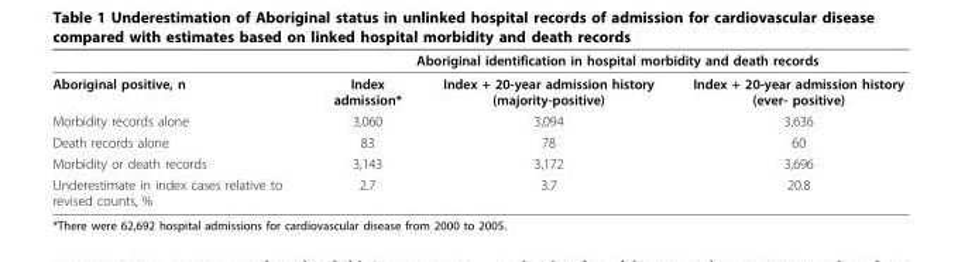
<table><thead><tr><td rowspan="2">Aboriginal positive, n</td><td colspan="3">Aboriginal identification in hospital morbidity and death records</td></tr><tr><td>Index admission*</td><td>Index + 20-year admission history (majority-positive)</td><td>Index + 20-year admission history (ever- positive)</td></tr></thead><tbody><tr><td>Morbidity records alone</td><td>3,060</td><td>3,094</td><td>3,636</td></tr><tr><td>Death records alone</td><td>83</td><td>78</td><td>60</td></tr><tr><td>Morbidity or death records</td><td>3,143</td><td>3,172</td><td>3,696</td></tr><tr><td>Underestimate in index cases relative to revised counts, %</td><td>2.7</td><td>3.7</td><td>20.8</td></tr></tbody></table>